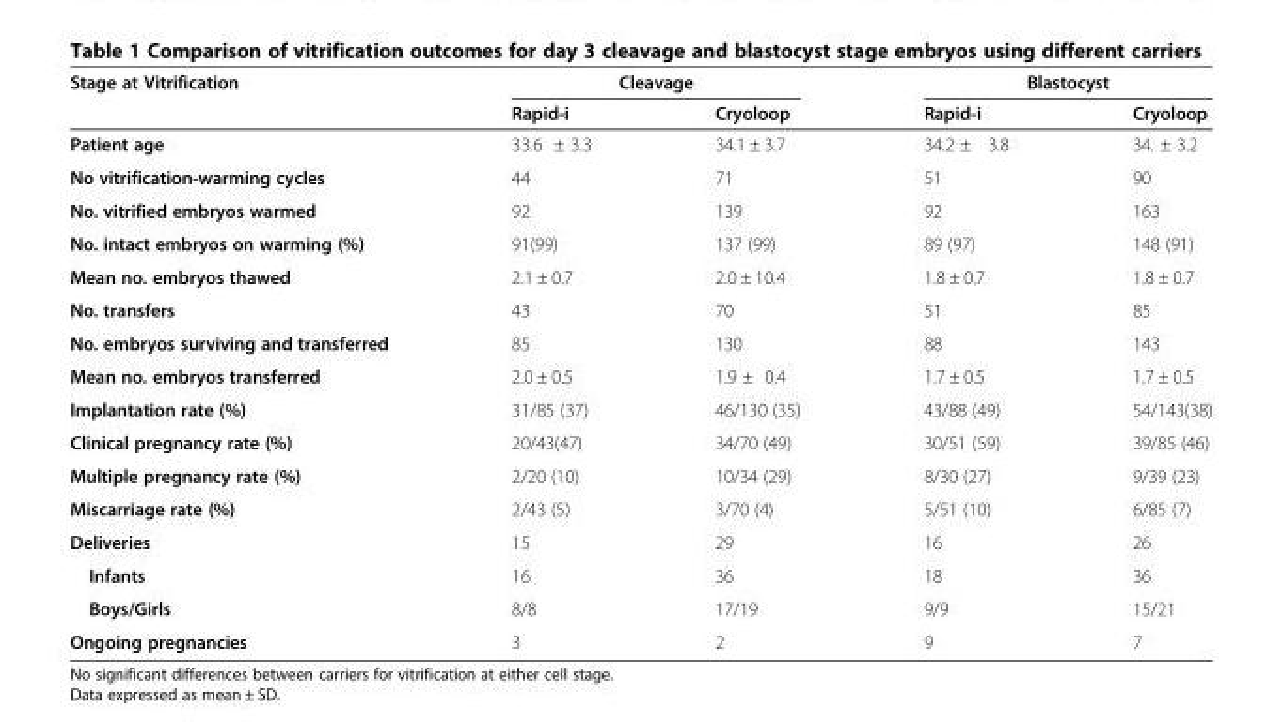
<table><thead><tr><td rowspan="2">Stage at Vitrification</td><td rowspan="2">Cleavage Rapid-i</td><td rowspan="2">Cryoloop</td><td rowspan="2">Blastocyst Rapid-i</td><td rowspan="2">Cryoloop</td></tr><tr></tr></thead><tbody><tr><td>Patient age</td><td>33.6 ± 3.3</td><td>34.1 ± 3.7</td><td>34.2 ± 3.8</td><td>34. ± 3.2</td></tr><tr><td>No vitrification-warming cycles</td><td>44</td><td>71</td><td>51</td><td>90</td></tr><tr><td>No. vitrified embryos warmed</td><td>92</td><td>139</td><td>92</td><td>163</td></tr><tr><td>No. intact embryos on warming (%)</td><td>91(99)</td><td>137 (99)</td><td>89 (97)</td><td>148 (91)</td></tr><tr><td>Mean no. embryos thawed</td><td>2.1 ± 0.7</td><td>2.0 ± 10.4</td><td>1.8 ± 0.7</td><td>1.8 ± 0.7</td></tr><tr><td>No. transfers</td><td>43</td><td>70</td><td>51</td><td>85</td></tr><tr><td>No. embryos surviving and transferred</td><td>85</td><td>130</td><td>88</td><td>143</td></tr><tr><td>Mean no. embryos transferred</td><td>2.0 ± 0.5</td><td>1.9 ± 0.4</td><td>1.7 ± 0.5</td><td>1.7 ± 0.5</td></tr><tr><td>Implantation rate (%)</td><td>31/85 (37)</td><td>46/130 (35)</td><td>43/88 (49)</td><td>54/143(38)</td></tr><tr><td>Clinical pregnancy rate (%)</td><td>20/43(47)</td><td>34/70 (49)</td><td>30/51 (59)</td><td>39/85 (46)</td></tr><tr><td>Multiple pregnancy rate (%)</td><td>2/20 (10)</td><td>10/34 (29)</td><td>8/30 (27)</td><td>9/39 (23)</td></tr><tr><td>Miscarriage rate (%)</td><td>2/43 (5)</td><td>3/70 (4)</td><td>5/51 (10)</td><td>6/85 (7)</td></tr><tr><td>Deliveries</td><td>15</td><td>29</td><td>16</td><td>26</td></tr><tr><td>Infants</td><td>16</td><td>36</td><td>18</td><td>36</td></tr><tr><td>Boys/Girls</td><td>8/8</td><td>17/19</td><td>9/9</td><td>15/21</td></tr><tr><td>Ongoing pregnancies</td><td>3</td><td>2</td><td>9</td><td>7</td></tr></tbody></table>